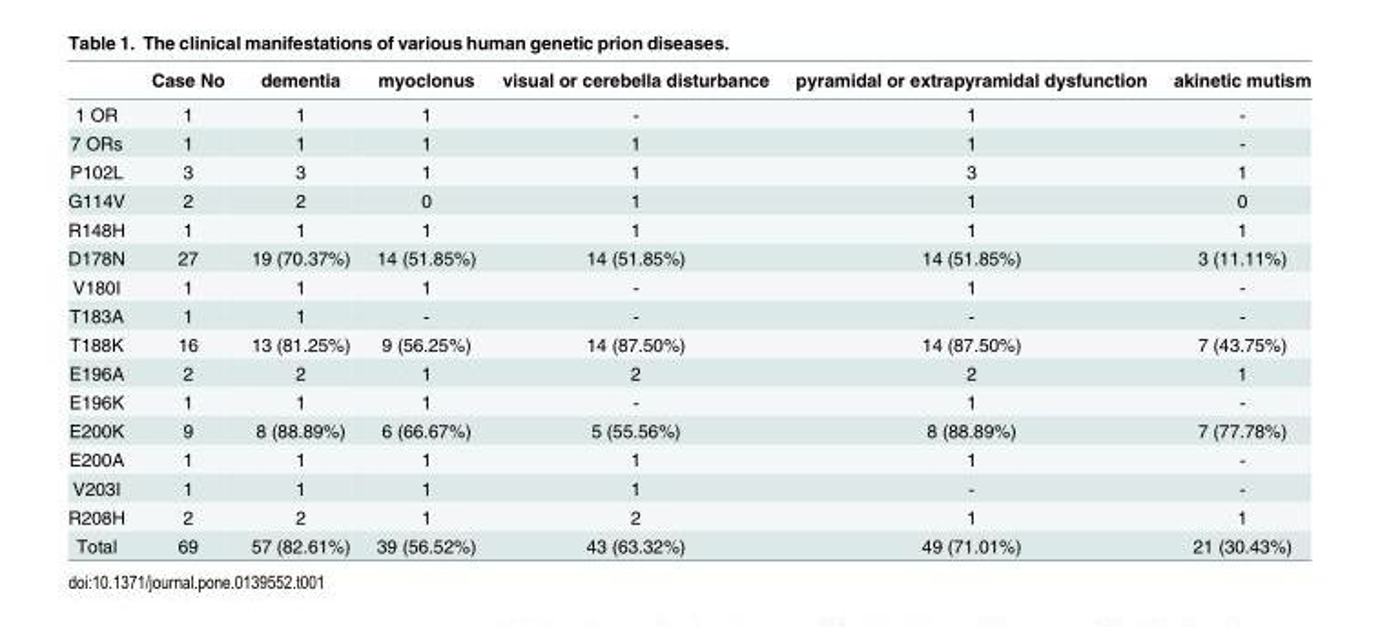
<table><thead><tr><td></td><td>Case No</td><td>dementia</td><td>myoclonus</td><td>visual or cerebella disturbance</td><td>pyramidal or extrapyramidal dysfunction</td><td>akinetic mutism</td></tr></thead><tbody><tr><td>1 OR</td><td>1</td><td>1</td><td>1</td><td>-</td><td>1</td><td>-</td></tr><tr><td>7 ORs</td><td>1</td><td>1</td><td>1</td><td>1</td><td>1</td><td>-</td></tr><tr><td>P102L</td><td>3</td><td>3</td><td>1</td><td>1</td><td>3</td><td>1</td></tr><tr><td>G114V</td><td>2</td><td>2</td><td>0</td><td>1</td><td>1</td><td>0</td></tr><tr><td>R148H</td><td>1</td><td>1</td><td>1</td><td>1</td><td>1</td><td>1</td></tr><tr><td>D178N</td><td>27</td><td>19 (70.37%)</td><td>14 (51.85%)</td><td>14 (51.85%)</td><td>14 (51.85%)</td><td>3 (11.11%)</td></tr><tr><td>V180I</td><td>1</td><td>1</td><td>1</td><td>-</td><td>1</td><td>-</td></tr><tr><td>T183A</td><td>1</td><td>1</td><td>-</td><td>-</td><td>-</td><td>-</td></tr><tr><td>T188K</td><td>16</td><td>13 (81.25%)</td><td>9 (56.25%)</td><td>14 (87.50%)</td><td>14 (87.50%)</td><td>7 (43.75%)</td></tr><tr><td>E196A</td><td>2</td><td>2</td><td>1</td><td>2</td><td>2</td><td>1</td></tr><tr><td>E196K</td><td>1</td><td>1</td><td>1</td><td>-</td><td>1</td><td>-</td></tr><tr><td>E200K</td><td>9</td><td>8 (88.89%)</td><td>6 (66.67%)</td><td>5 (55.56%)</td><td>8 (88.89%)</td><td>7 (77.78%)</td></tr><tr><td>E200A</td><td>1</td><td>1</td><td>1</td><td>1</td><td>1</td><td>-</td></tr><tr><td>V203I</td><td>1</td><td>1</td><td>1</td><td>1</td><td>-</td><td>-</td></tr><tr><td>R208H</td><td>2</td><td>2</td><td>1</td><td>2</td><td>1</td><td>1</td></tr><tr><td>Total</td><td>69</td><td>57 (82.61%)</td><td>39 (56.52%)</td><td>43 (63.32%)</td><td>49 (71.01%)</td><td>21 (30.43%)</td></tr></tbody></table>